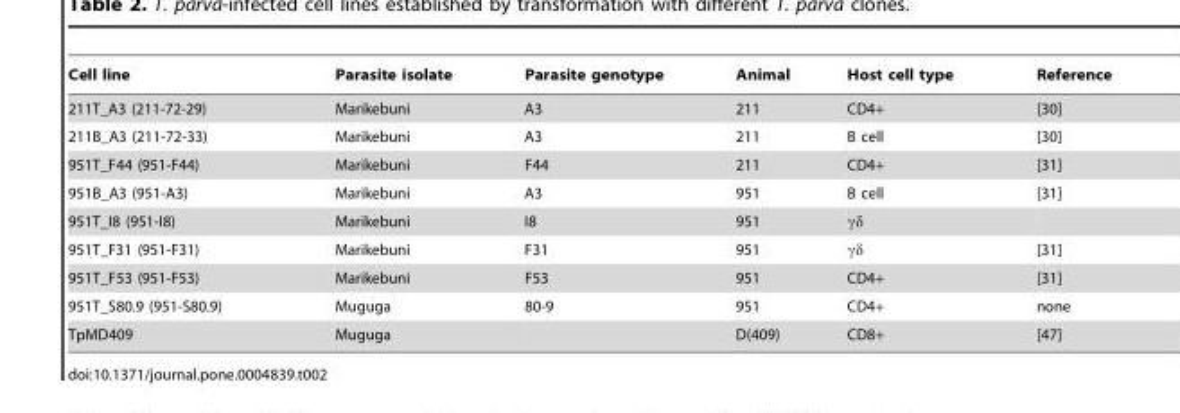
<table><thead><tr><td>Cell line</td><td>Parasite isolate</td><td>Parasite genotype</td><td>Animal</td><td>Host cell type</td><td>Reference</td></tr></thead><tbody><tr><td>211T_A3 (211-72-29)</td><td>Marikebuni</td><td>A3</td><td>211</td><td>CD4+</td><td>[30]</td></tr><tr><td>211B_A3 (211-72-33)</td><td>Marikebuni</td><td>A3</td><td>211</td><td>B cell</td><td>[30]</td></tr><tr><td>951T_F44 (951-F44)</td><td>Marikebuni</td><td>F44</td><td>211</td><td>CD4+</td><td>[31]</td></tr><tr><td>951B_A3 (951-A3)</td><td>Marikebuni</td><td>A3</td><td>951</td><td>B cell</td><td>[31]</td></tr><tr><td>951T_I8 (951-I8)</td><td>Marikebuni</td><td>I8</td><td>951</td><td>γδ</td><td></td></tr><tr><td>951T_F31 (951-F31)</td><td>Marikebuni</td><td>F31</td><td>951</td><td>γδ</td><td>[31]</td></tr><tr><td>951T_F53 (951-F53)</td><td>Marikebuni</td><td>F53</td><td>951</td><td>CD4+</td><td>[31]</td></tr><tr><td>951T_S80.9 (951-S80.9)</td><td>Muguga</td><td>80-9</td><td>951</td><td>CD4+</td><td>none</td></tr><tr><td>TpMD409</td><td>Muguga</td><td></td><td>D(409)</td><td>CD8+</td><td>[47]</td></tr></tbody></table>